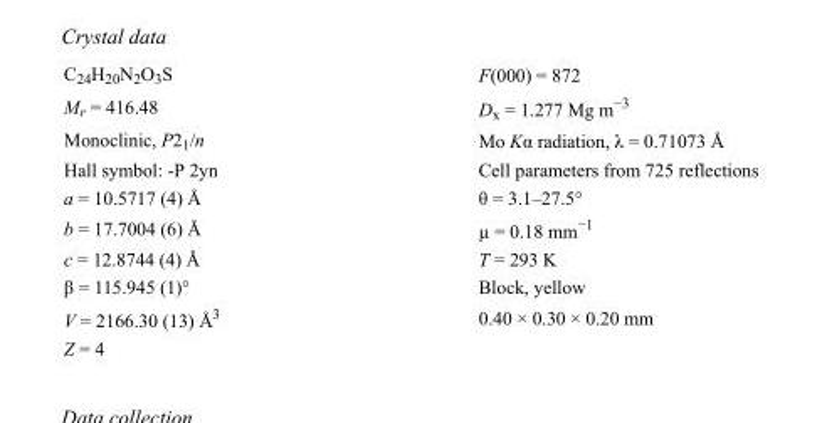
<table><tbody><tr><td>C<sub>24</sub>H<sub>20</sub>N<sub>2</sub>O<sub>3</sub>S</td><td>F(000) = 872</td></tr><tr><td>M<sub>r</sub> = 416.48</td><td>D<sub>x</sub> = 1.277 Mg m<sup>−3</sup></td></tr><tr><td>Monoclinic, P2<sub>1</sub>/n</td><td>Mo Kα radiation, λ = 0.71073 Å</td></tr><tr><td>Hall symbol: -P 2yn</td><td>Cell parameters from 725 reflections</td></tr><tr><td>a = 10.5717 (4) Å</td><td>θ = 3.1–27.5°</td></tr><tr><td>b = 17.7004 (6) Å</td><td>µ = 0.18 mm<sup>−1</sup></td></tr><tr><td>c = 12.8744 (4) Å</td><td>T = 293 K</td></tr><tr><td>β = 115.945 (1)°</td><td>Block, yellow</td></tr><tr><td>V = 2166.30 (13) Å<sup>3</sup></td><td>0.40 × 0.30 × 0.20 mm</td></tr><tr><td>Z = 4</td><td></td></tr></tbody></table>